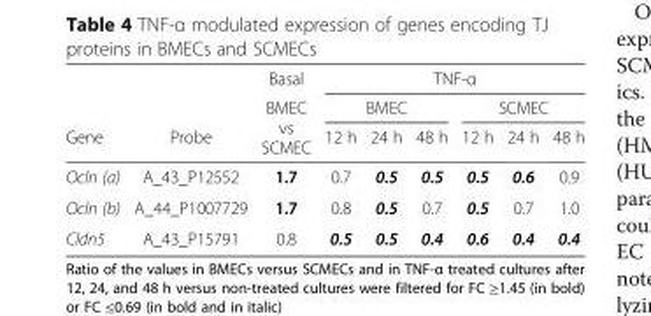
<table><thead><tr><td rowspan="3">Gene</td><td rowspan="3">Probe</td><td rowspan="3">Basal BMEC vs SCMEC</td><td colspan="6">TNF-α</td></tr><tr><td colspan="3">BMEC</td><td colspan="3">SCMEC</td></tr><tr><td>12 h</td><td>24 h</td><td>48 h</td><td>12 h</td><td>24 h</td><td>48 h</td></tr></thead><tbody><tr><td>Ocln (a)</td><td>A_43_P12552</td><td>1.7</td><td>0.7</td><td>0.5</td><td>0.5</td><td>0.5</td><td>0.6</td><td>0.9</td></tr><tr><td>Ocln (b)</td><td>A_44_P1007729</td><td>1.7</td><td>0.8</td><td>0.5</td><td>0.7</td><td>0.5</td><td>0.7</td><td>1.0</td></tr><tr><td>Cldn5</td><td>A_43_P15791</td><td>0.8</td><td>0.5</td><td>0.5</td><td>0.4</td><td>0.6</td><td>0.4</td><td>0.4</td></tr></tbody></table>